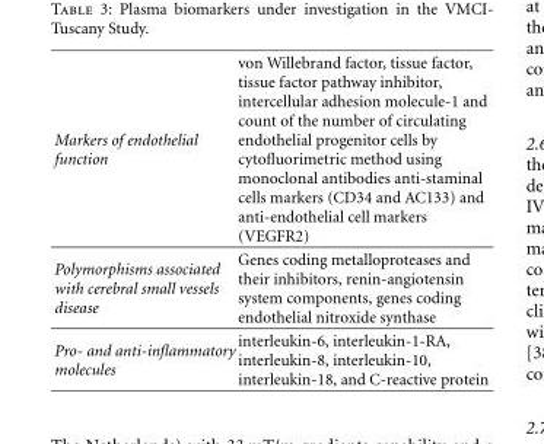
<table><thead><tr><td>Markers of endothelial function</td><td>von Willebrand factor, tissue factor, tissue factor pathway inhibitor, intercellular adhesion molecule-1 and count of the number of circulating endothelial progenitor cells by cytofluorimetric method using monoclonal antibodies anti-staminal cells markers (CD34 and AC133) and anti-endothelial cell markers (VEGFR2)</td></tr></thead><tbody><tr><td>Polymorphisms associated with cerebral small vessels disease</td><td>Genes coding metalloproteases and their inhibitors, renin-angiotensin system components, genes coding endothelial nitroxide synthase</td></tr><tr><td>Pro- and anti-inflammatory molecules</td><td>interleukin-6, interleukin-1-RA, interleukin-8, interleukin-10, interleukin-18, and C-reactive protein</td></tr></tbody></table>